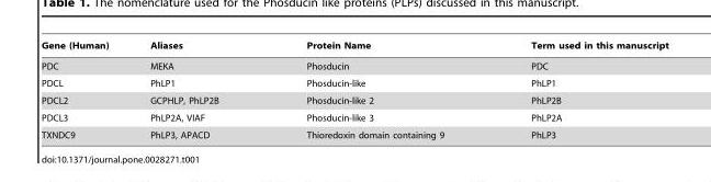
<table><thead><tr><td>Gene (Human)</td><td>Aliases</td><td>Protein Name</td><td>Term used in this manuscript</td></tr></thead><tbody><tr><td>PDC</td><td>MEKA</td><td>Phosducin</td><td>PDC</td></tr><tr><td>PDCL</td><td>PhLP1</td><td>Phosducin-like</td><td>PhLP1</td></tr><tr><td>PDCL2</td><td>GCPHLP, PhLP2B</td><td>Phosducin-like 2</td><td>PhLP2B</td></tr><tr><td>PDCL3</td><td>PhLP2A, VIAF</td><td>Phosducin-like 3</td><td>PhLP2A</td></tr><tr><td>TXNDC9</td><td>PhLP3, APACD</td><td>Thioredoxin domain containing 9</td><td>PhLP3</td></tr></tbody></table>